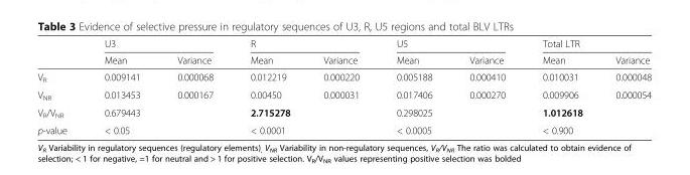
<table><thead><tr><td rowspan="2"></td><td colspan="2">U3</td><td colspan="2">R</td><td colspan="2">U5</td><td colspan="2">Total LTR</td></tr><tr><td>Mean</td><td>Variance</td><td>Mean</td><td>Variance</td><td>Mean</td><td>Variance</td><td>Mean</td><td>Variance</td></tr></thead><tbody><tr><td>V<sub>R</sub></td><td>0.009141</td><td>0.000068</td><td>0.012219</td><td>0.000220</td><td>0.005188</td><td>0.000410</td><td>0.010031</td><td>0.000048</td></tr><tr><td>V<sub>NR</sub></td><td>0.013453</td><td>0.000167</td><td>0.00450</td><td>0.000031</td><td>0.017406</td><td>0.000270</td><td>0.009906</td><td>0.000054</td></tr><tr><td>V<sub>R</sub>/V<sub>NR</sub></td><td colspan="2">0.679443</td><td colspan="2">2.715278</td><td colspan="2">0.298025</td><td colspan="2">1.012618</td></tr><tr><td>p-value</td><td colspan="2">&lt; 0.05</td><td colspan="2">&lt; 0.0001</td><td colspan="2">&lt; 0.0005</td><td colspan="2">&lt; 0.900</td></tr></tbody></table>